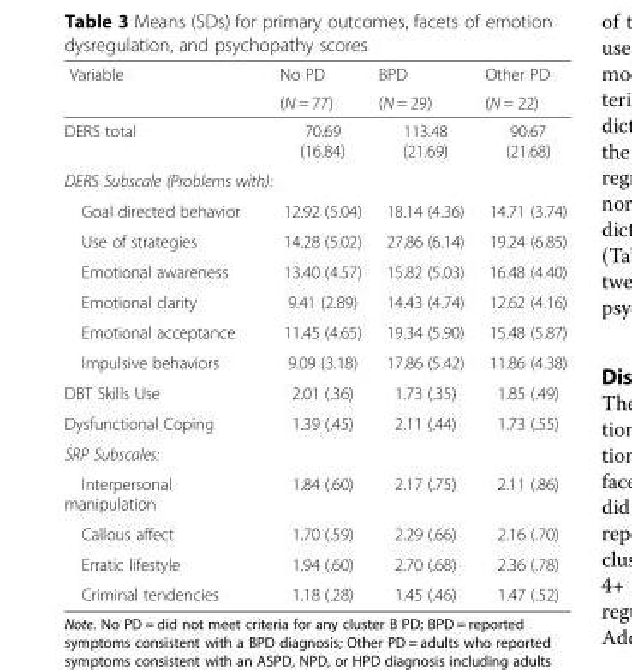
<table><thead><tr><td rowspan="2">Variable</td><td rowspan="2">No PD (N = 77)</td><td rowspan="2">BPD (N = 29)</td><td rowspan="2">Other PD (N = 22)</td></tr><tr></tr></thead><tbody><tr><td>DERS total</td><td>70.69 (16.84)</td><td>113.48 (21.69)</td><td>90.67 (21.68)</td></tr><tr><td colspan="4">DERS Subscale (Problems with):</td></tr><tr><td>Goal directed behavior</td><td>12.92 (5.04)</td><td>18.14 (4.36)</td><td>14.71 (3.74)</td></tr><tr><td>Use of strategies</td><td>14.28 (5.02)</td><td>27.86 (6.14)</td><td>19.24 (6.85)</td></tr><tr><td>Emotional awareness</td><td>13.40 (4.57)</td><td>15.82 (5.03)</td><td>16.48 (4.40)</td></tr><tr><td>Emotional clarity</td><td>9.41 (2.89)</td><td>14.43 (4.74)</td><td>12.62 (4.16)</td></tr><tr><td>Emotional acceptance</td><td>11.45 (4.65)</td><td>19.34 (5.90)</td><td>15.48 (5.87)</td></tr><tr><td>Impulsive behaviors</td><td>9.09 (3.18)</td><td>17.86 (5.42)</td><td>11.86 (4.38)</td></tr><tr><td>DBT Skills Use</td><td>2.01 (.36)</td><td>1.73 (.35)</td><td>1.85 (.49)</td></tr><tr><td>Dysfunctional Coping</td><td>1.39 (.45)</td><td>2.11 (.44)</td><td>1.73 (.55)</td></tr><tr><td colspan="4">SRP Subscales:</td></tr><tr><td>Interpersonal manipulation</td><td>1.84 (.60)</td><td>2.17 (.75)</td><td>2.11 (.86)</td></tr><tr><td>Callous affect</td><td>1.70 (.59)</td><td>2.29 (.66)</td><td>2.16 (.70)</td></tr><tr><td>Erratic lifestyle</td><td>1.94 (.60)</td><td>2.70 (.68)</td><td>2.36 (.78)</td></tr><tr><td>Criminal tendencies</td><td>1.18 (.28)</td><td>1.45 (.46)</td><td>1.47 (.52)</td></tr></tbody></table>